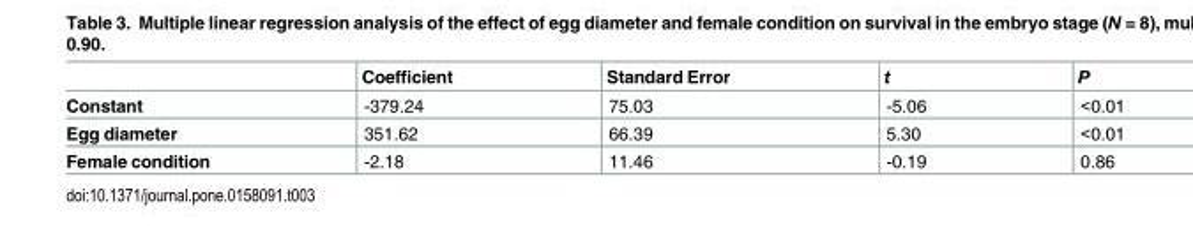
<table><thead><tr><td></td><td>Coefficient</td><td>Standard Error</td><td>t</td><td>P</td></tr></thead><tbody><tr><td>Constant</td><td>-379.24</td><td>75.03</td><td>-5.06</td><td>&lt;0.01</td></tr><tr><td>Egg diameter</td><td>351.62</td><td>66.39</td><td>5.30</td><td>&lt;0.01</td></tr><tr><td>Female condition</td><td>-2.18</td><td>11.46</td><td>-0.19</td><td>0.86</td></tr></tbody></table>